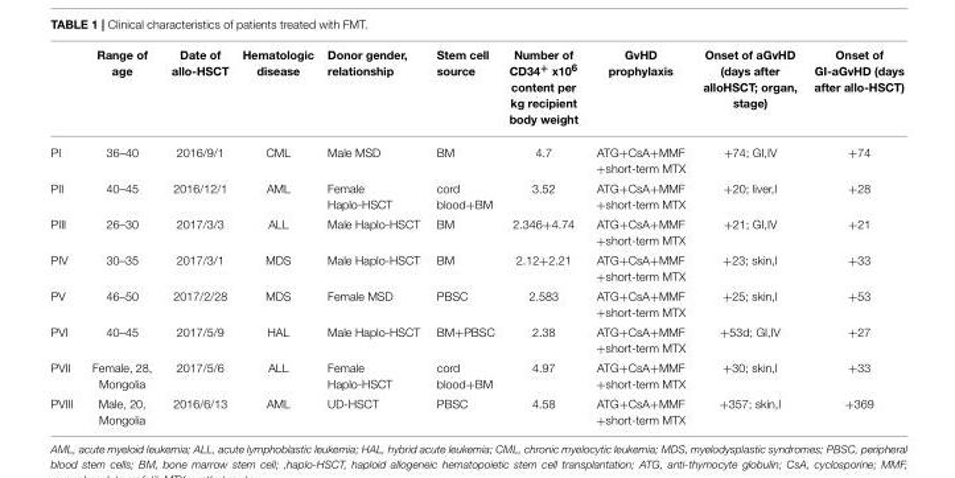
<table><thead><tr><td></td><td>Range of age</td><td>Date of allo-HSCT</td><td>Hematologic disease</td><td>Donor gender, relationship</td><td>Stem cell source</td><td>Number of CD34<sup>+</sup> x10<sup>6</sup> content per kg recipient body weight</td><td>GvHD prophylaxis</td><td>Onset of aGvHD (days after alloHSCT; organ, stage)</td><td>Onset of GI-aGvHD (days after allo-HSCT)</td></tr></thead><tbody><tr><td>PI</td><td>36–40</td><td>2016/9/1</td><td>CML</td><td>Male MSD</td><td>BM</td><td>4.7</td><td>ATG+CsA+MMF +short-term MTX</td><td>+74; GI,IV</td><td>+74</td></tr><tr><td>PII</td><td>40–45</td><td>2016/12/1</td><td>AML</td><td>Female Haplo-HSCT</td><td>cord blood+BM</td><td>3.52</td><td>ATG+CsA+MMF +short-term MTX</td><td>+20; liver,I</td><td>+28</td></tr><tr><td>PIII</td><td>26–30</td><td>2017/3/3</td><td>ALL</td><td>Male Haplo-HSCT</td><td>BM</td><td>2.346+4.74</td><td>ATG+CsA+MMF +short-term MTX</td><td>+21; GI,IV</td><td>+21</td></tr><tr><td>PIV</td><td>30–35</td><td>2017/3/1</td><td>MDS</td><td>Male Haplo-HSCT</td><td>BM</td><td>2.12+2.21</td><td>ATG+CsA+MMF +short-term MTX</td><td>+23; skin,I</td><td>+33</td></tr><tr><td>PV</td><td>46–50</td><td>2017/2/28</td><td>MDS</td><td>Female MSD</td><td>PBSC</td><td>2.583</td><td>ATG+CsA+MMF +short-term MTX</td><td>+25; skin,I</td><td>+53</td></tr><tr><td>PVI</td><td>40–45</td><td>2017/5/9</td><td>HAL</td><td>Male Haplo-HSCT</td><td>BM+PBSC</td><td>2.38</td><td>ATG+CsA+MMF +short-term MTX</td><td>+53d; GI,IV</td><td>+27</td></tr><tr><td>PVII</td><td>Female, 28, Mongolia</td><td>2017/5/6</td><td>ALL</td><td>Female Haplo-HSCT</td><td>cord blood+BM</td><td>4.97</td><td>ATG+CsA+MMF +short-term MTX</td><td>+30; skin,I</td><td>+33</td></tr><tr><td>PVIII</td><td>Male, 20, Mongolia</td><td>2016/6/13</td><td>AML</td><td>UD-HSCT</td><td>PBSC</td><td>4.58</td><td>ATG+CsA+MMF +short-term MTX</td><td>+357; skin,I</td><td>+369</td></tr></tbody></table>